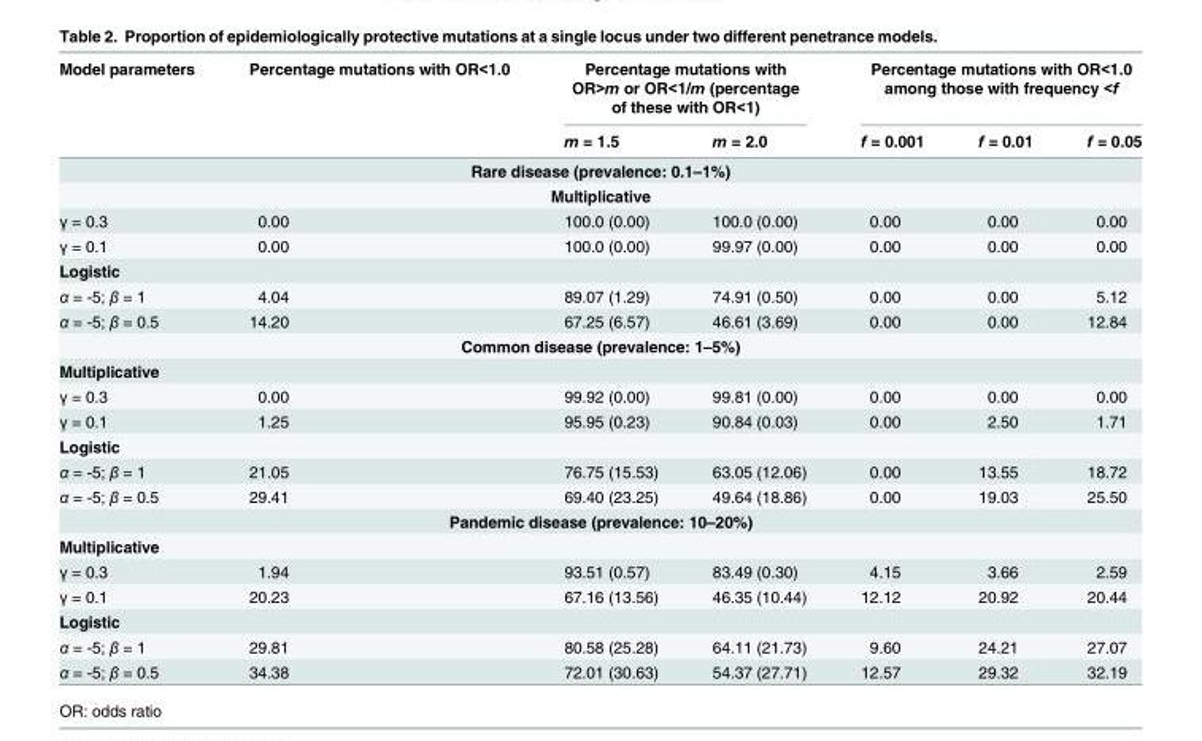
<table><thead><tr><td rowspan="2">Model parameters</td><td rowspan="2">Percentage mutations with OR&lt;1.0</td><td colspan="2">Percentage mutations with OR&gt;m or OR&lt;1/m (percentage of these with OR&lt;1)</td><td colspan="3">Percentage mutations with OR&lt;1.0 among those with frequency &lt;f</td></tr><tr><td>m = 1.5</td><td>m = 2.0</td><td>f = 0.001</td><td>f = 0.01</td><td>f = 0.05</td></tr></thead><tbody><tr><td colspan="7">Rare disease (prevalence: 0.1–1%)</td></tr><tr><td colspan="7">Multiplicative</td></tr><tr><td>γ = 0.3</td><td>0.00</td><td>100.0 (0.00)</td><td>100.0 (0.00)</td><td>0.00</td><td>0.00</td><td>0.00</td></tr><tr><td>γ = 0.1</td><td>0.00</td><td>100.0 (0.00)</td><td>99.97 (0.00)</td><td>0.00</td><td>0.00</td><td>0.00</td></tr><tr><td colspan="7">Logistic</td></tr><tr><td>α = -5; β = 1</td><td>4.04</td><td>89.07 (1.29)</td><td>74.91 (0.50)</td><td>0.00</td><td>0.00</td><td>5.12</td></tr><tr><td>α = -5; β = 0.5</td><td>14.20</td><td>67.25 (6.57)</td><td>46.61 (3.69)</td><td>0.00</td><td>0.00</td><td>12.84</td></tr><tr><td colspan="7">Common disease (prevalence: 1–5%)</td></tr><tr><td colspan="7">Multiplicative</td></tr><tr><td>γ = 0.3</td><td>0.00</td><td>99.92 (0.00)</td><td>99.81 (0.00)</td><td>0.00</td><td>0.00</td><td>0.00</td></tr><tr><td>γ = 0.1</td><td>1.25</td><td>95.95 (0.23)</td><td>90.84 (0.03)</td><td>0.00</td><td>2.50</td><td>1.71</td></tr><tr><td colspan="7">Logistic</td></tr><tr><td>α = -5; β = 1</td><td>21.05</td><td>76.75 (15.53)</td><td>63.05 (12.06)</td><td>0.00</td><td>13.55</td><td>18.72</td></tr><tr><td>α = -5; β = 0.5</td><td>29.41</td><td>69.40 (23.25)</td><td>49.64 (18.86)</td><td>0.00</td><td>19.03</td><td>25.50</td></tr><tr><td colspan="7">Pandemic disease (prevalence: 10–20%)</td></tr><tr><td colspan="7">Multiplicative</td></tr><tr><td>γ = 0.3</td><td>1.94</td><td>93.51 (0.57)</td><td>83.49 (0.30)</td><td>4.15</td><td>3.66</td><td>2.59</td></tr><tr><td>γ = 0.1</td><td>20.23</td><td>67.16 (13.56)</td><td>46.35 (10.44)</td><td>12.12</td><td>20.92</td><td>20.44</td></tr><tr><td colspan="7">Logistic</td></tr><tr><td>α = -5; β = 1</td><td>29.81</td><td>80.58 (25.28)</td><td>64.11 (21.73)</td><td>9.60</td><td>24.21</td><td>27.07</td></tr><tr><td>α = -5; β = 0.5</td><td>34.38</td><td>72.01 (30.63)</td><td>54.37 (27.71)</td><td>12.57</td><td>29.32</td><td>32.19</td></tr></tbody></table>